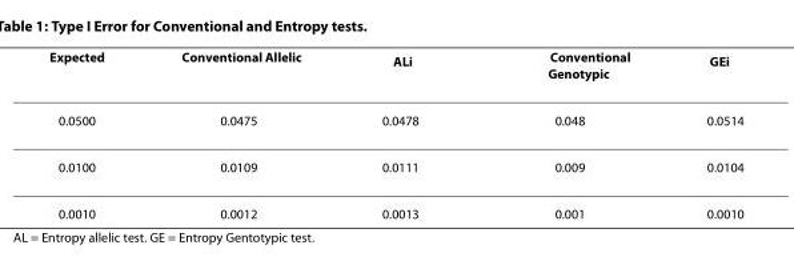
<table><thead><tr><td>Expected</td><td>Conventional Allelic</td><td>AL<sub>i</sub></td><td>Conventional Genotypic</td><td>GE<sub>i</sub></td></tr></thead><tbody><tr><td>0.0500</td><td>0.0475</td><td>0.0478</td><td>0.048</td><td>0.0514</td></tr><tr><td>0.0100</td><td>0.0109</td><td>0.0111</td><td>0.009</td><td>0.0104</td></tr><tr><td>0.0010</td><td>0.0012</td><td>0.0013</td><td>0.001</td><td>0.0010</td></tr></tbody></table>